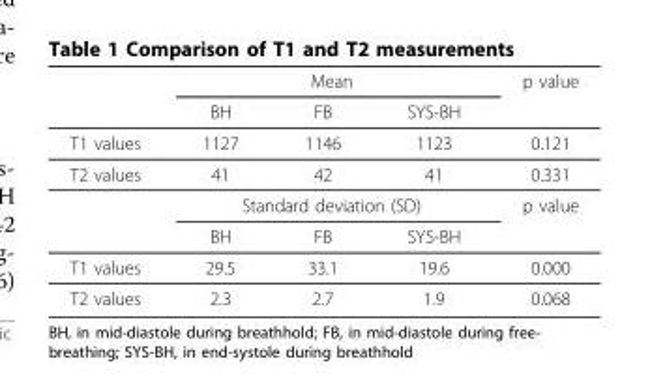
<table><thead><tr><td rowspan="2"></td><td colspan="3">Mean</td><td rowspan="2">p value</td></tr><tr><td>BH</td><td>FB</td><td>SYS-BH</td></tr></thead><tbody><tr><td>T1 values</td><td>1127</td><td>1146</td><td>1123</td><td>0.121</td></tr><tr><td rowspan="3">T2 values</td><td>41</td><td>42</td><td>41</td><td>0.331</td></tr><tr><td colspan="3">Standard deviation (SD)</td><td>p value</td></tr><tr><td>BH</td><td>FB</td><td>SYS-BH</td><td></td></tr><tr><td>T1 values</td><td>29.5</td><td>33.1</td><td>19.6</td><td>0.000</td></tr><tr><td>T2 values</td><td>2.3</td><td>2.7</td><td>1.9</td><td>0.068</td></tr></tbody></table>